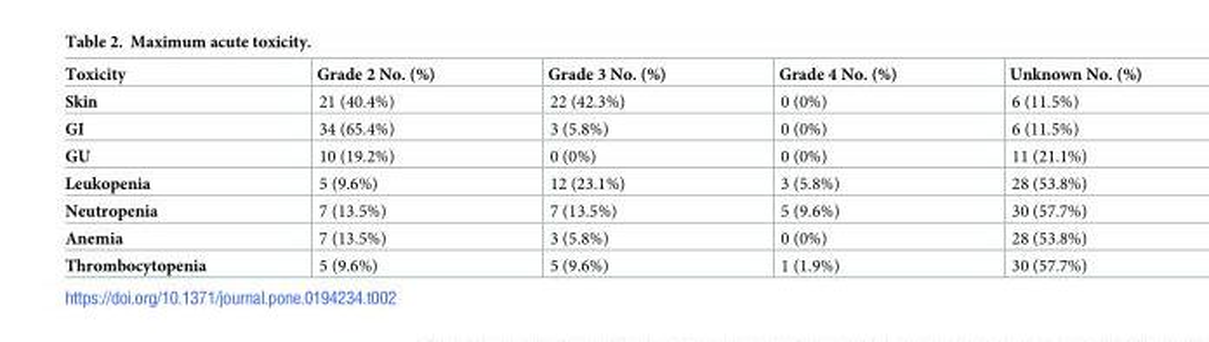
<table><thead><tr><td>Toxicity</td><td>Grade 2 No. (%)</td><td>Grade 3 No. (%)</td><td>Grade 4 No. (%)</td><td>Unknown No. (%)</td></tr></thead><tbody><tr><td>Skin</td><td>21 (40.4%)</td><td>22 (42.3%)</td><td>0 (0%)</td><td>6 (11.5%)</td></tr><tr><td>GI</td><td>34 (65.4%)</td><td>3 (5.8%)</td><td>0 (0%)</td><td>6 (11.5%)</td></tr><tr><td>GU</td><td>10 (19.2%)</td><td>0 (0%)</td><td>0 (0%)</td><td>11 (21.1%)</td></tr><tr><td>Leukopenia</td><td>5 (9.6%)</td><td>12 (23.1%)</td><td>3 (5.8%)</td><td>28 (53.8%)</td></tr><tr><td>Neutropenia</td><td>7 (13.5%)</td><td>7 (13.5%)</td><td>5 (9.6%)</td><td>30 (57.7%)</td></tr><tr><td>Anemia</td><td>7 (13.5%)</td><td>3 (5.8%)</td><td>0 (0%)</td><td>28 (53.8%)</td></tr><tr><td>Thrombocytopenia</td><td>5 (9.6%)</td><td>5 (9.6%)</td><td>1 (1.9%)</td><td>30 (57.7%)</td></tr></tbody></table>